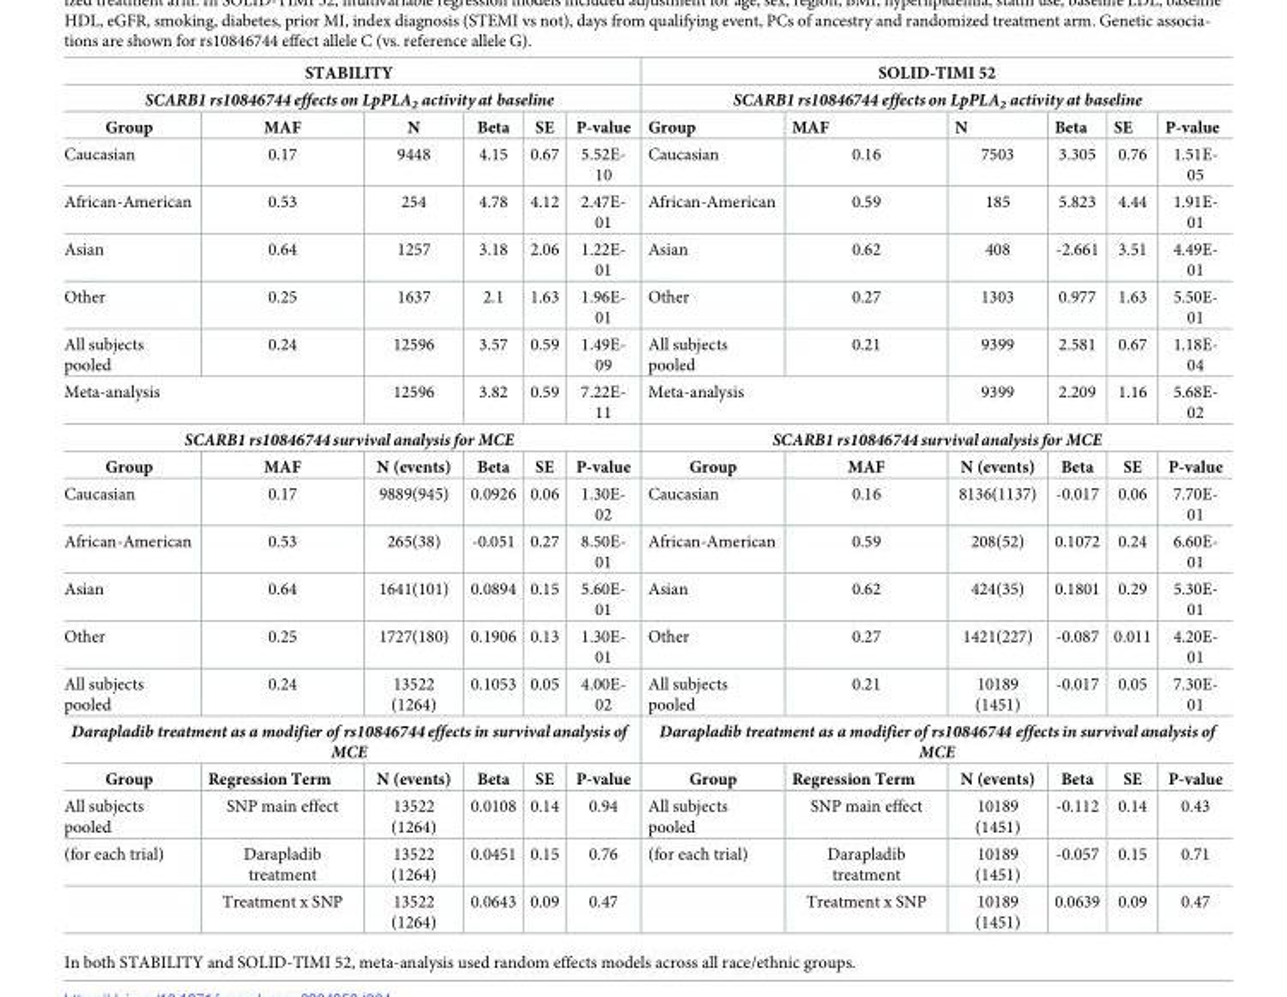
<table><tbody><tr><td colspan="6">STABILITY</td><td colspan="6">SOLID-TIMI 52</td></tr><tr><td colspan="6">SCARB1 rs10846744 effects on LpPLA<sub>2</sub> activity at baseline</td><td colspan="6">SCARB1 rs10846744 effects on LpPLA<sub>2</sub> activity at baseline</td></tr><tr><td>Group</td><td>MAF</td><td>N</td><td>Beta</td><td>SE</td><td>P-value</td><td>Group</td><td>MAF</td><td>N</td><td>Beta</td><td>SE</td><td>P-value</td></tr><tr><td>Caucasian</td><td>0.17</td><td>9448</td><td>4.15</td><td>0.67</td><td>5.52E- 10</td><td>Caucasian</td><td>0.16</td><td>7503</td><td>3.305</td><td>0.76</td><td>1.51E- 05</td></tr><tr><td>African-American</td><td>0.53</td><td>254</td><td>4.78</td><td>4.12</td><td>2.47E- 01</td><td>African-American</td><td>0.59</td><td>185</td><td>5.823</td><td>4.44</td><td>1.91E- 01</td></tr><tr><td>Asian</td><td>0.64</td><td>1257</td><td>3.18</td><td>2.06</td><td>1.22E- 01</td><td>Asian</td><td>0.62</td><td>408</td><td>-2.661</td><td>3.51</td><td>4.49E- 01</td></tr><tr><td>Other</td><td>0.25</td><td>1637</td><td>2.1</td><td>1.63</td><td>1.96E- 01</td><td>Other</td><td>0.27</td><td>1303</td><td>0.977</td><td>1.63</td><td>5.50E- 01</td></tr><tr><td>All subjects pooled</td><td>0.24</td><td>12596</td><td>3.57</td><td>0.59</td><td>1.49E- 09</td><td>All subjects pooled</td><td>0.21</td><td>9399</td><td>2.581</td><td>0.67</td><td>1.18E- 04</td></tr><tr><td colspan="2">Meta-analysis</td><td>12596</td><td>3.82</td><td>0.59</td><td>7.22E- 11</td><td colspan="2">Meta-analysis</td><td>9399</td><td>2.209</td><td>1.16</td><td>5.68E- 02</td></tr><tr><td colspan="6">SCARB1 rs10846744 survival analysis for MCE</td><td colspan="6">SCARB1 rs10846744 survival analysis for MCE</td></tr><tr><td>Group</td><td>MAF</td><td>N (events)</td><td>Beta</td><td>SE</td><td>P-value</td><td>Group</td><td>MAF</td><td>N (events)</td><td>Beta</td><td>SE</td><td>P-value</td></tr><tr><td>Caucasian</td><td>0.17</td><td>9889(945)</td><td>0.0926</td><td>0.06</td><td>1.30E- 02</td><td>Caucasian</td><td>0.16</td><td>8136(1137)</td><td>-0.017</td><td>0.06</td><td>7.70E- 01</td></tr><tr><td>African-American</td><td>0.53</td><td>265(38)</td><td>-0.051</td><td>0.27</td><td>8.50E- 01</td><td>African-American</td><td>0.59</td><td>208(52)</td><td>0.1072</td><td>0.24</td><td>6.60E- 01</td></tr><tr><td>Asian</td><td>0.64</td><td>1641(101)</td><td>0.0894</td><td>0.15</td><td>5.60E- 01</td><td>Asian</td><td>0.62</td><td>424(35)</td><td>0.1801</td><td>0.29</td><td>5.30E- 01</td></tr><tr><td>Other</td><td>0.25</td><td>1727(180)</td><td>0.1906</td><td>0.13</td><td>1.30E- 01</td><td>Other</td><td>0.27</td><td>1421(227)</td><td>-0.087</td><td>0.011</td><td>4.20E- 01</td></tr><tr><td>All subjects pooled</td><td>0.24</td><td>13522 (1264)</td><td>0.1053</td><td>0.05</td><td>4.00E- 02</td><td>All subjects pooled</td><td>0.21</td><td>10189 (1451)</td><td>-0.017</td><td>0.05</td><td>7.30E- 01</td></tr><tr><td colspan="6">Darapladib treatment as a modifier of rs10846744 effects in survival analysis of MCE</td><td colspan="6">Darapladib treatment as a modifier of rs10846744 effects in survival analysis of MCE</td></tr><tr><td>Group</td><td>Regression Term</td><td>N (events)</td><td>Beta</td><td>SE</td><td>P-value</td><td>Group</td><td>Regression Term</td><td>N (events)</td><td>Beta</td><td>SE</td><td>P-value</td></tr><tr><td>All subjects pooled</td><td>SNP main effect</td><td>13522 (1264)</td><td>0.0108</td><td>0.14</td><td>0.94</td><td>All subjects pooled</td><td>SNP main effect</td><td>10189 (1451)</td><td>-0.112</td><td>0.14</td><td>0.43</td></tr><tr><td rowspan="2">(for each trial)</td><td>Darapladib treatment</td><td>13522 (1264)</td><td>0.0451</td><td>0.15</td><td>0.76</td><td>(for each trial)</td><td>Darapladib treatment</td><td>10189 (1451)</td><td>-0.057</td><td>0.15</td><td>0.71</td></tr><tr><td>Treatment x SNP</td><td>13522 (1264)</td><td>0.0643</td><td>0.09</td><td>0.47</td><td></td><td>Treatment x SNP</td><td>10189 (1451)</td><td>0.0639</td><td>0.09</td><td>0.47</td></tr></tbody></table>